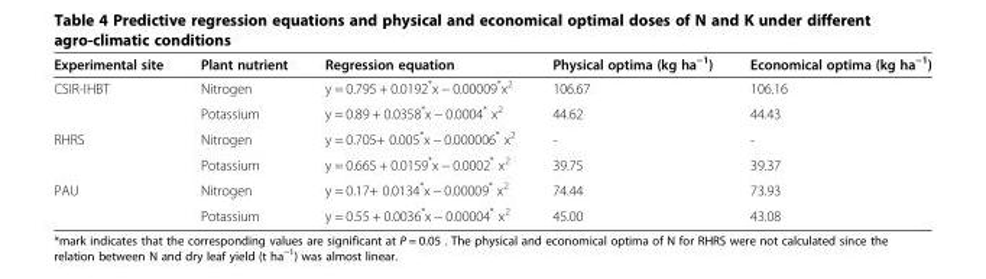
<table><thead><tr><td>Experimental site</td><td>Plant nutrient</td><td>Regression equation</td><td>Physical optima (kg ha<sup>−1</sup>)</td><td>Economical optima (kg ha<sup>−1</sup>)</td></tr></thead><tbody><tr><td rowspan="2">CSIR-IHBT</td><td>Nitrogen</td><td>y = 0.795 + 0.0192*x − 0.00009*x<sup>2</sup></td><td>106.67</td><td>106.16</td></tr><tr><td>Potassium</td><td>y = 0.89 + 0.0358*x − 0.0004* x<sup>2</sup></td><td>44.62</td><td>44.43</td></tr><tr><td rowspan="2">RHRS</td><td>Nitrogen</td><td>y = 0.705+ 0.005*x − 0.000006* x<sup>2</sup></td><td>-</td><td>-</td></tr><tr><td>Potassium</td><td>y = 0.665 + 0.0159*x − 0.0002* x<sup>2</sup></td><td>39.75</td><td>39.37</td></tr><tr><td rowspan="2">PAU</td><td>Nitrogen</td><td>y = 0.17+ 0.0134*x − 0.00009* x<sup>2</sup></td><td>74.44</td><td>73.93</td></tr><tr><td>Potassium</td><td>y = 0.55 + 0.0036*x − 0.00004* x<sup>2</sup></td><td>45.00</td><td>43.08</td></tr></tbody></table>